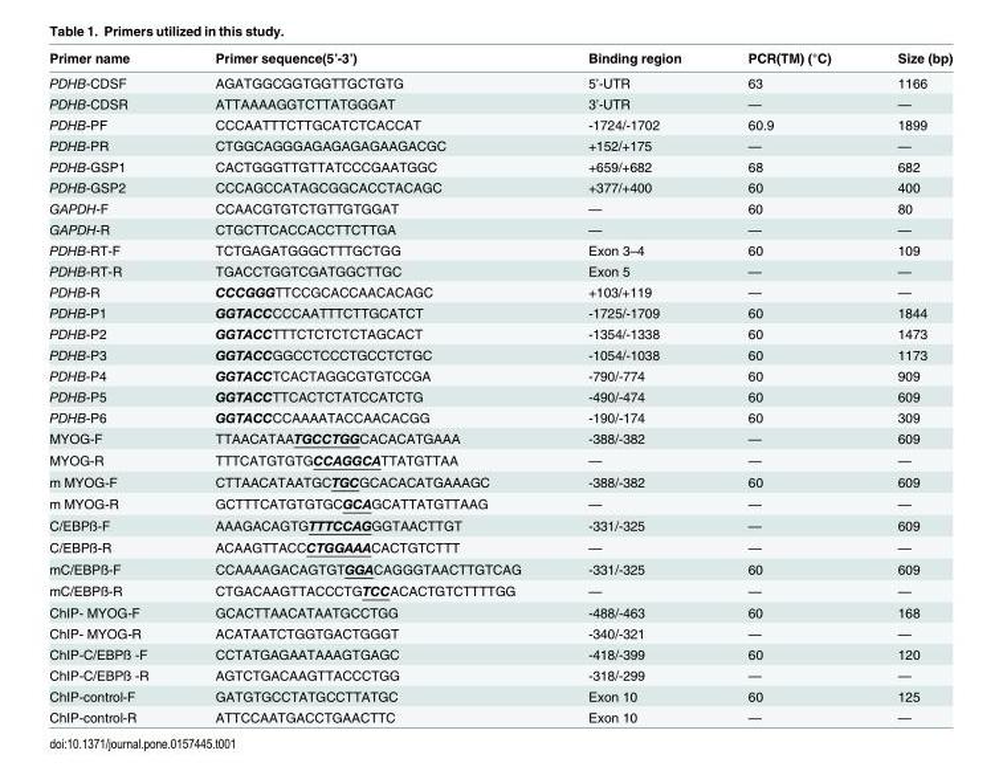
<table><thead><tr><td>Primer name</td><td>Primer sequence(5’-3’)</td><td>Binding region</td><td>PCR(TM) (°C)</td><td>Size (bp)</td></tr></thead><tbody><tr><td>PDHB-CDSF</td><td>AGATGGCGGTGGTTGCTGTG</td><td>5’-UTR</td><td>63</td><td>1166</td></tr><tr><td>PDHB-CDSR</td><td>ATTAAAAGGTCTTATGGGAT</td><td>3’-UTR</td><td>—</td><td>—</td></tr><tr><td>PDHB-PF</td><td>CCCAATTTCTTGCATCTCACCAT</td><td>-1724/-1702</td><td>60.9</td><td>1899</td></tr><tr><td>PDHB-PR</td><td>CTGGCAGGGAGAGAGAGAAGACGC</td><td>+152/+175</td><td>—</td><td>—</td></tr><tr><td>PDHB-GSP1</td><td>CACTGGGTTGTTATCCCGAATGGC</td><td>+659/+682</td><td>68</td><td>682</td></tr><tr><td>PDHB-GSP2</td><td>CCCAGCCATAGCGGCACCTACAGC</td><td>+377/+400</td><td>60</td><td>400</td></tr><tr><td>GAPDH-F</td><td>CCAACGTGTCTGTTGTGGAT</td><td>—</td><td>60</td><td>80</td></tr><tr><td>GAPDH-R</td><td>CTGCTTCACCACCTTCTTGA</td><td>—</td><td>—</td><td>—</td></tr><tr><td>PDHB-RT-F</td><td>TCTGAGATGGGCTTTGCTGG</td><td>Exon 3–4</td><td>60</td><td>109</td></tr><tr><td>PDHB-RT-R</td><td>TGACCTGGTCGATGGCTTGC</td><td>Exon 5</td><td>—</td><td>—</td></tr><tr><td>PDHB-R</td><td>CCCGGGTTCCGCACCAACACAGC</td><td>+103/+119</td><td>—</td><td>—</td></tr><tr><td>PDHB-P1</td><td>GGTACCCCCAATTTCTTGCATCT</td><td>-1725/-1709</td><td>60</td><td>1844</td></tr><tr><td>PDHB-P2</td><td>GGTACCTTTCTCTCTCTAGCACT</td><td>-1354/-1338</td><td>60</td><td>1473</td></tr><tr><td>PDHB-P3</td><td>GGTACCGGCCTCCCTGCCTCTGC</td><td>-1054/-1038</td><td>60</td><td>1173</td></tr><tr><td>PDHB-P4</td><td>GGTACCTCACTAGGCGTGTCCGA</td><td>-790/-774</td><td>60</td><td>909</td></tr><tr><td>PDHB-P5</td><td>GGTACCTTCACTCTATCCATCTG</td><td>-490/-474</td><td>60</td><td>609</td></tr><tr><td>PDHB-P6</td><td>GGTACCCCAAAATACCAACACGG</td><td>-190/-174</td><td>60</td><td>309</td></tr><tr><td>MYOG-F</td><td>TTAACATAATGCCTGGCACACATGAAA</td><td>-388/-382</td><td>—</td><td>609</td></tr><tr><td>MYOG-R</td><td>TTTCATGTGTGCCAGGCATTATGTTAA</td><td>—</td><td>—</td><td>—</td></tr><tr><td>m MYOG-F</td><td>CTTAACATAATGCTGCGCACACATGAAAGC</td><td>-388/-382</td><td>60</td><td>609</td></tr><tr><td>m MYOG-R</td><td>GCTTTCATGTGTGCGCAGCATTATGTTAAG</td><td>—</td><td>—</td><td>—</td></tr><tr><td>C/EBPß-F</td><td>AAAGACAGTGTTTCCAGGGTAACTTGT</td><td>-331/-325</td><td>—</td><td>609</td></tr><tr><td>C/EBPß-R</td><td>ACAAGTTACCCTGGAAACACTGTCTTT</td><td>—</td><td>—</td><td>—</td></tr><tr><td>mC/EBPß-F</td><td>CCAAAAGACAGTGTGGACAGGGTAACTTGTCAG</td><td>-331/-325</td><td>60</td><td>609</td></tr><tr><td>mC/EBPß-R</td><td>CTGACAAGTTACCCTGTCCACACTGTCTTTTGG</td><td>—</td><td>—</td><td>—</td></tr><tr><td>ChIP- MYOG-F</td><td>GCACTTAACATAATGCCTGG</td><td>-488/-463</td><td>60</td><td>168</td></tr><tr><td>ChIP- MYOG-R</td><td>ACATAATCTGGTGACTGGGT</td><td>-340/-321</td><td>—</td><td>—</td></tr><tr><td>ChIP-C/EBPß -F</td><td>CCTATGAGAATAAAGTGAGC</td><td>-418/-399</td><td>60</td><td>120</td></tr><tr><td>ChIP-C/EBPß -R</td><td>AGTCTGACAAGTTACCCTGG</td><td>-318/-299</td><td>—</td><td>—</td></tr><tr><td>ChIP-control-F</td><td>GATGTGCCTATGCCTTATGC</td><td>Exon 10</td><td>60</td><td>125</td></tr><tr><td>ChIP-control-R</td><td>ATTCCAATGACCTGAACTTC</td><td>Exon 10</td><td>—</td><td>—</td></tr></tbody></table>